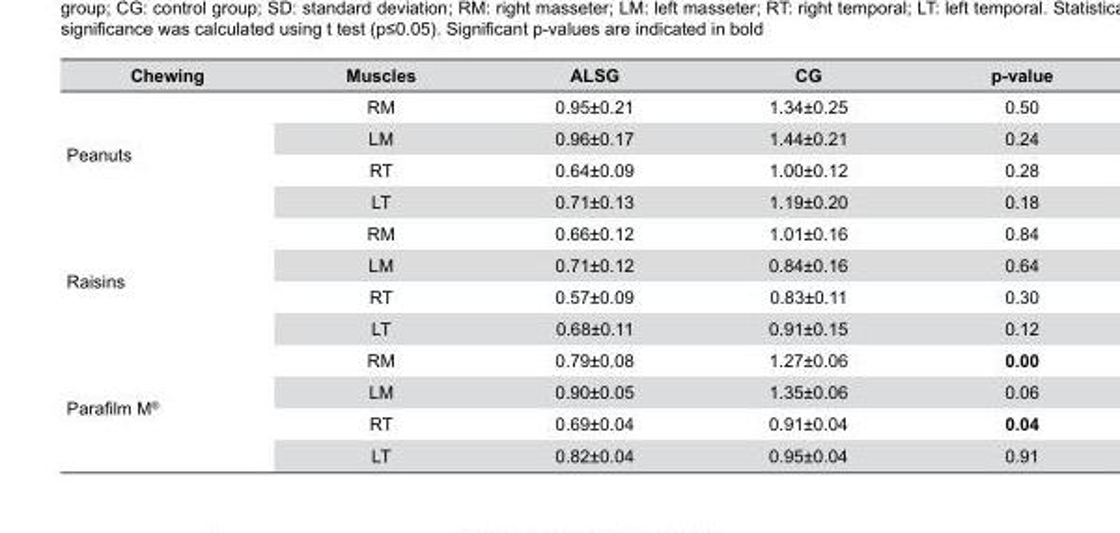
<table><thead><tr><td>Chewing</td><td>Muscles</td><td>ALSG</td><td>CG</td><td>p-value</td></tr></thead><tbody><tr><td rowspan="4">Peanuts</td><td>RM</td><td>0.95±0.21</td><td>1.34±0.25</td><td>0.50</td></tr><tr><td>LM</td><td>0.96±0.17</td><td>1.44±0.21</td><td>0.24</td></tr><tr><td>RT</td><td>0.64±0.09</td><td>1.00±0.12</td><td>0.28</td></tr><tr><td>LT</td><td>0.71±0.13</td><td>1.19±0.20</td><td>0.18</td></tr><tr><td rowspan="4">Raisins</td><td>RM</td><td>0.66±0.12</td><td>1.01±0.16</td><td>0.84</td></tr><tr><td>LM</td><td>0.71±0.12</td><td>0.84±0.16</td><td>0.64</td></tr><tr><td>RT</td><td>0.57±0.09</td><td>0.83±0.11</td><td>0.30</td></tr><tr><td>LT</td><td>0.68±0.11</td><td>0.91±0.15</td><td>0.12</td></tr><tr><td rowspan="4">Parafilm M<sup>®</sup></td><td>RM</td><td>0.79±0.08</td><td>1.27±0.06</td><td>0.00</td></tr><tr><td>LM</td><td>0.90±0.05</td><td>1.35±0.06</td><td>0.06</td></tr><tr><td>RT</td><td>0.69±0.04</td><td>0.91±0.04</td><td>0.04</td></tr><tr><td>LT</td><td>0.82±0.04</td><td>0.95±0.04</td><td>0.91</td></tr></tbody></table>